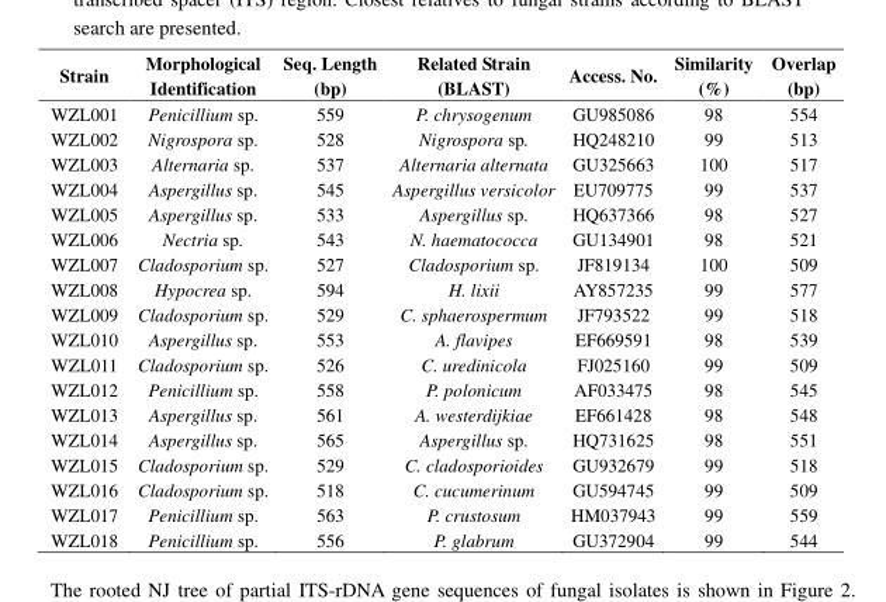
<table><thead><tr><td>Strain</td><td>Morphological Identification</td><td>Seq. Length (bp)</td><td>Related Strain (BLAST)</td><td>Access. No.</td><td>Similarity (%)</td><td>Overlap (bp)</td></tr></thead><tbody><tr><td>WZL001</td><td>Penicillium sp.</td><td>559</td><td>P. chrysogenum</td><td>GU985086</td><td>98</td><td>554</td></tr><tr><td>WZL002</td><td>Nigrospora sp.</td><td>528</td><td>Nigrospora sp.</td><td>HQ248210</td><td>99</td><td>513</td></tr><tr><td>WZL003</td><td>Alternaria sp.</td><td>537</td><td>Alternaria alternata</td><td>GU325663</td><td>100</td><td>517</td></tr><tr><td>WZL004</td><td>Aspergillus sp.</td><td>545</td><td>Aspergillus versicolor</td><td>EU709775</td><td>99</td><td>537</td></tr><tr><td>WZL005</td><td>Aspergillus sp.</td><td>533</td><td>Aspergillus sp.</td><td>HQ637366</td><td>98</td><td>527</td></tr><tr><td>WZL006</td><td>Nectria sp.</td><td>543</td><td>N. haematococca</td><td>GU134901</td><td>98</td><td>521</td></tr><tr><td>WZL007</td><td>Cladosporium sp.</td><td>527</td><td>Cladosporium sp.</td><td>JF819134</td><td>100</td><td>509</td></tr><tr><td>WZL008</td><td>Hypocrea sp.</td><td>594</td><td>H. lixii</td><td>AY857235</td><td>99</td><td>577</td></tr><tr><td>WZL009</td><td>Cladosporium sp.</td><td>529</td><td>C. sphaerospermum</td><td>JF793522</td><td>99</td><td>518</td></tr><tr><td>WZL010</td><td>Aspergillus sp.</td><td>553</td><td>A. flavipes</td><td>EF669591</td><td>98</td><td>539</td></tr><tr><td>WZL011</td><td>Cladosporium sp.</td><td>526</td><td>C. uredinicola</td><td>FJ025160</td><td>99</td><td>509</td></tr><tr><td>WZL012</td><td>Penicillium sp.</td><td>558</td><td>P. polonicum</td><td>AF033475</td><td>98</td><td>545</td></tr><tr><td>WZL013</td><td>Aspergillus sp.</td><td>561</td><td>A. westerdijkiae</td><td>EF661428</td><td>98</td><td>548</td></tr><tr><td>WZL014</td><td>Aspergillus sp.</td><td>565</td><td>Aspergillus sp.</td><td>HQ731625</td><td>98</td><td>551</td></tr><tr><td>WZL015</td><td>Cladosporium sp.</td><td>529</td><td>C. cladosporioides</td><td>GU932679</td><td>99</td><td>518</td></tr><tr><td>WZL016</td><td>Cladosporium sp.</td><td>518</td><td>C. cucumerinum</td><td>GU594745</td><td>99</td><td>509</td></tr><tr><td>WZL017</td><td>Penicillium sp.</td><td>563</td><td>P. crustosum</td><td>HM037943</td><td>99</td><td>559</td></tr><tr><td>WZL018</td><td>Penicillium sp.</td><td>556</td><td>P. glabrum</td><td>GU372904</td><td>99</td><td>544</td></tr></tbody></table>